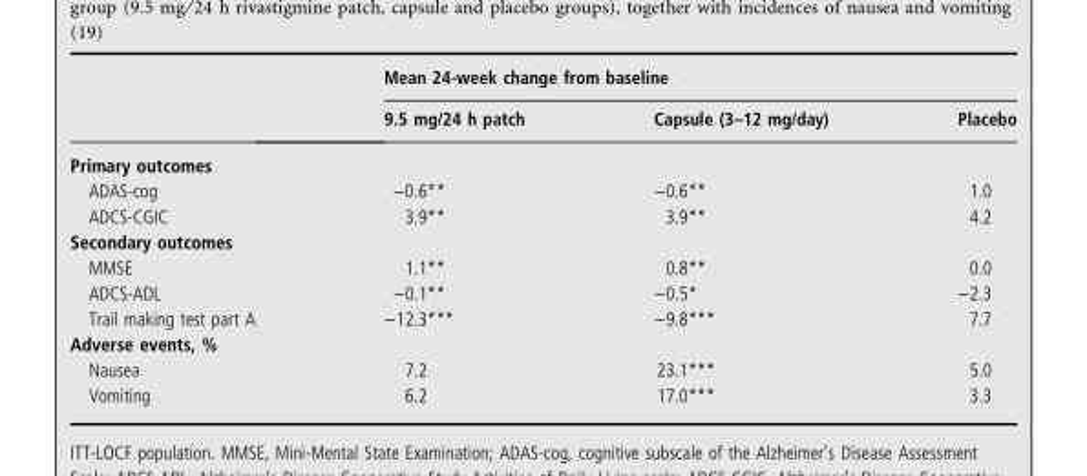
<table><thead><tr><td rowspan="2"></td><td colspan="3">Mean 24-week change from baseline</td></tr><tr><td>9.5 mg/24 h patch</td><td>Capsule (3–12 mg/day)</td><td>Placebo</td></tr></thead><tbody><tr><td colspan="4">Primary outcomes</td></tr><tr><td>ADAS-cog</td><td>−0.6**</td><td>−0.6**</td><td>1.0</td></tr><tr><td>ADCS-CGIC</td><td>3.9**</td><td>3.9**</td><td>4.2</td></tr><tr><td colspan="4">Secondary outcomes</td></tr><tr><td>MMSE</td><td>1.1**</td><td>0.8**</td><td>0.0</td></tr><tr><td>ADCS-ADL</td><td>−0.1**</td><td>−0.5*</td><td>−2.3</td></tr><tr><td>Trail making test part A</td><td>−12.3***</td><td>−9.8***</td><td>7.7</td></tr><tr><td colspan="4">Adverse events, %</td></tr><tr><td>Nausea</td><td>7.2</td><td>23.1***</td><td>5.0</td></tr><tr><td>Vomiting</td><td>6.2</td><td>17.0***</td><td>3.3</td></tr></tbody></table>